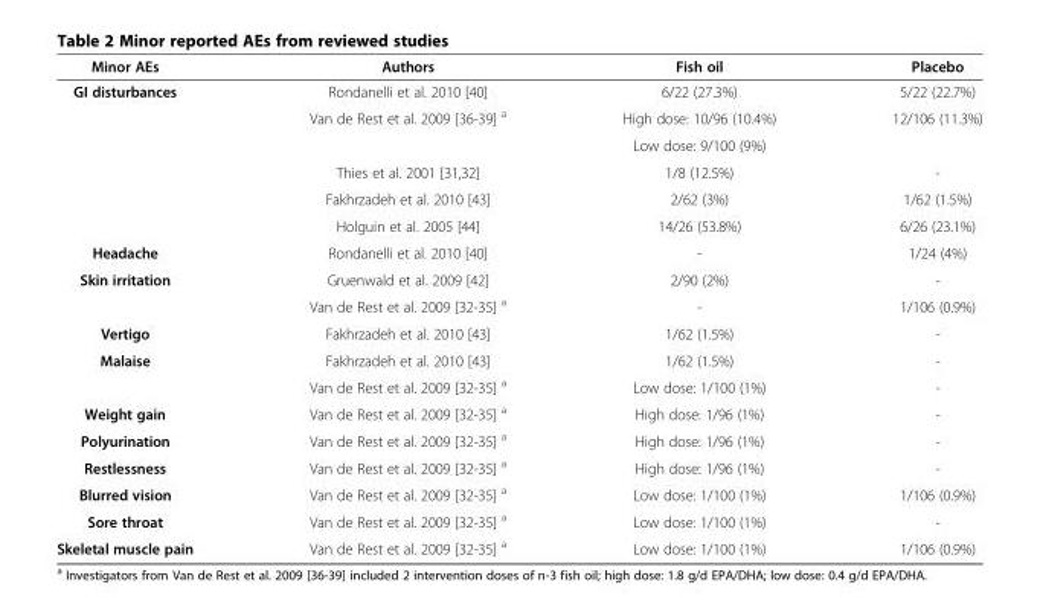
<table><thead><tr><td>Minor AEs</td><td>Authors</td><td>Fish oil</td><td>Placebo</td></tr></thead><tbody><tr><td rowspan="6">GI disturbances</td><td>Rondanelli et al. 2010 [40]</td><td>6/22 (27.3%)</td><td>5/22 (22.7%)</td></tr><tr><td>Van de Rest et al. 2009 [36-39] <sup>a</sup></td><td>High dose: 10/96 (10.4%)</td><td>12/106 (11.3%)</td></tr><tr><td></td><td>Low dose: 9/100 (9%)</td><td></td></tr><tr><td>Thies et al. 2001 [31,32]</td><td>1/8 (12.5%)</td><td>-</td></tr><tr><td>Fakhrzadeh et al. 2010 [43]</td><td>2/62 (3%)</td><td>1/62 (1.5%)</td></tr><tr><td>Holguin et al. 2005 [44]</td><td>14/26 (53.8%)</td><td>6/26 (23.1%)</td></tr><tr><td>Headache</td><td>Rondanelli et al. 2010 [40]</td><td>-</td><td>1/24 (4%)</td></tr><tr><td rowspan="2">Skin irritation</td><td>Gruenwald et al. 2009 [42]</td><td>2/90 (2%)</td><td>-</td></tr><tr><td>Van de Rest et al. 2009 [32-35] <sup>a</sup></td><td>-</td><td>1/106 (0.9%)</td></tr><tr><td>Vertigo</td><td>Fakhrzadeh et al. 2010 [43]</td><td>1/62 (1.5%)</td><td>-</td></tr><tr><td rowspan="2">Malaise</td><td>Fakhrzadeh et al. 2010 [43]</td><td>1/62 (1.5%)</td><td>-</td></tr><tr><td>Van de Rest et al. 2009 [32-35] <sup>a</sup></td><td>Low dose: 1/100 (1%)</td><td>-</td></tr><tr><td>Weight gain</td><td>Van de Rest et al. 2009 [32-35] <sup>a</sup></td><td>High dose: 1/96 (1%)</td><td>-</td></tr><tr><td>Polyurination</td><td>Van de Rest et al. 2009 [32-35] <sup>a</sup></td><td>High dose: 1/96 (1%)</td><td>-</td></tr><tr><td>Restlessness</td><td>Van de Rest et al. 2009 [32-35] <sup>a</sup></td><td>High dose: 1/96 (1%)</td><td>-</td></tr><tr><td>Blurred vision</td><td>Van de Rest et al. 2009 [32-35] <sup>a</sup></td><td>Low dose: 1/100 (1%)</td><td>1/106 (0.9%)</td></tr><tr><td>Sore throat</td><td>Van de Rest et al. 2009 [32-35] <sup>a</sup></td><td>Low dose: 1/100 (1%)</td><td>-</td></tr><tr><td>Skeletal muscle pain</td><td>Van de Rest et al. 2009 [32-35] <sup>a</sup></td><td>Low dose: 1/100 (1%)</td><td>1/106 (0.9%)</td></tr></tbody></table>